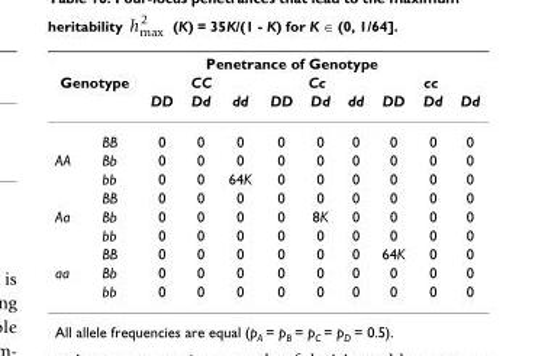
<table><thead><tr><td></td><td colspan="10">Penetrance of Genotype</td></tr><tr><td colspan="2">Genotype</td><td colspan="3">CC</td><td colspan="3">Cc</td><td colspan="3">cc</td></tr><tr><td></td><td></td><td>DD</td><td>Dd</td><td>dd</td><td>DD</td><td>Dd</td><td>dd</td><td>DD</td><td>Dd</td><td>Dd</td></tr></thead><tbody><tr><td></td><td>BB</td><td>0</td><td>0</td><td>0</td><td>0</td><td>0</td><td>0</td><td>0</td><td>0</td><td>0</td></tr><tr><td rowspan="3">AA</td><td>Bb</td><td>0</td><td>0</td><td>0</td><td>0</td><td>0</td><td>0</td><td>0</td><td>0</td><td>0</td></tr><tr><td>bb</td><td>0</td><td>0</td><td>64K</td><td>0</td><td>0</td><td>0</td><td>0</td><td>0</td><td>0</td></tr><tr><td>BB</td><td>0</td><td>0</td><td>0</td><td>0</td><td>0</td><td>0</td><td>0</td><td>0</td><td>0</td></tr><tr><td rowspan="3">Aa</td><td>Bb</td><td>0</td><td>0</td><td>0</td><td>0</td><td>8K</td><td>0</td><td>0</td><td>0</td><td>0</td></tr><tr><td>bb</td><td>0</td><td>0</td><td>0</td><td>0</td><td>0</td><td>0</td><td>0</td><td>0</td><td>0</td></tr><tr><td>BB</td><td>0</td><td>0</td><td>0</td><td>0</td><td>0</td><td>0</td><td>64K</td><td>0</td><td>0</td></tr><tr><td rowspan="2">aa</td><td>Bb</td><td>0</td><td>0</td><td>0</td><td>0</td><td>0</td><td>0</td><td>0</td><td>0</td><td>0</td></tr><tr><td>bb</td><td>0</td><td>0</td><td>0</td><td>0</td><td>0</td><td>0</td><td>0</td><td>0</td><td>0</td></tr></tbody></table>